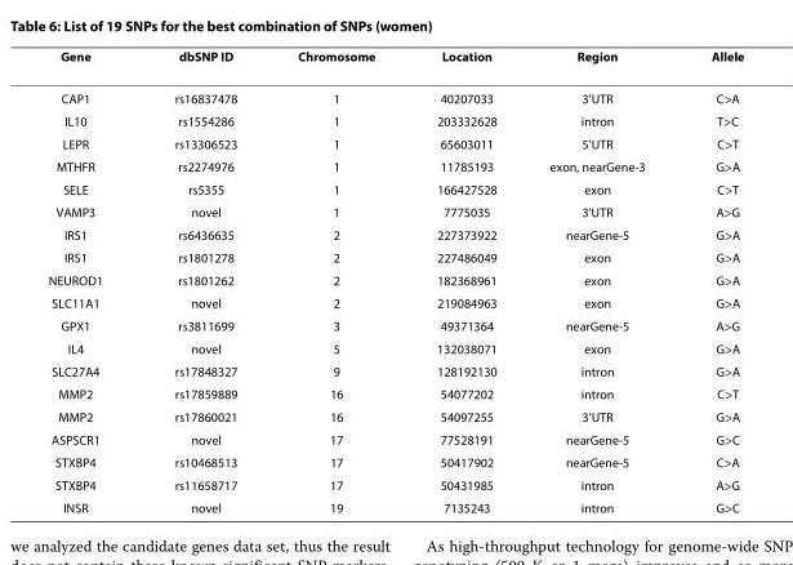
<table><thead><tr><td>Gene</td><td>dbSNP ID</td><td>Chromosome</td><td>Location</td><td>Region</td><td>Allele</td></tr></thead><tbody><tr><td>CAP1</td><td>rs16837478</td><td>1</td><td>40207033</td><td>3&#x27;UTR</td><td>C&gt;A</td></tr><tr><td>IL10</td><td>rs1554286</td><td>1</td><td>203332628</td><td>intron</td><td>T&gt;C</td></tr><tr><td>LEPR</td><td>rs13306523</td><td>1</td><td>65603011</td><td>5&#x27;UTR</td><td>C&gt;T</td></tr><tr><td>MTHFR</td><td>rs2274976</td><td>1</td><td>11785193</td><td>exon, nearGene-3</td><td>G&gt;A</td></tr><tr><td>SELE</td><td>rs5355</td><td>1</td><td>166427528</td><td>exon</td><td>C&gt;T</td></tr><tr><td>VAMP3</td><td>novel</td><td>1</td><td>7775035</td><td>3&#x27;UTR</td><td>A&gt;G</td></tr><tr><td>IRS1</td><td>rs6436635</td><td>2</td><td>227373922</td><td>nearGene-5</td><td>G&gt;A</td></tr><tr><td>IRS1</td><td>rs1801278</td><td>2</td><td>227486049</td><td>exon</td><td>G&gt;A</td></tr><tr><td>NEUROD1</td><td>rs1801262</td><td>2</td><td>182368961</td><td>exon</td><td>G&gt;A</td></tr><tr><td>SLC11A1</td><td>novel</td><td>2</td><td>219084963</td><td>exon</td><td>G&gt;A</td></tr><tr><td>GPX1</td><td>rs3811699</td><td>3</td><td>49371364</td><td>nearGene-5</td><td>A&gt;G</td></tr><tr><td>IL4</td><td>novel</td><td>5</td><td>132038071</td><td>exon</td><td>G&gt;A</td></tr><tr><td>SLC27A4</td><td>rs17848327</td><td>9</td><td>128192130</td><td>intron</td><td>G&gt;A</td></tr><tr><td>MMP2</td><td>rs17859889</td><td>16</td><td>54077202</td><td>intron</td><td>C&gt;T</td></tr><tr><td>MMP2</td><td>rs17860021</td><td>16</td><td>54097255</td><td>3&#x27;UTR</td><td>G&gt;A</td></tr><tr><td>ASPSCR1</td><td>novel</td><td>17</td><td>77528191</td><td>nearGene-5</td><td>G&gt;C</td></tr><tr><td>STXBP4</td><td>rs10468513</td><td>17</td><td>50417902</td><td>nearGene-5</td><td>C&gt;A</td></tr><tr><td>STXBP4</td><td>rs11658717</td><td>17</td><td>50431985</td><td>intron</td><td>A&gt;G</td></tr><tr><td>INSR</td><td>novel</td><td>19</td><td>7135243</td><td>intron</td><td>G&gt;C</td></tr></tbody></table>